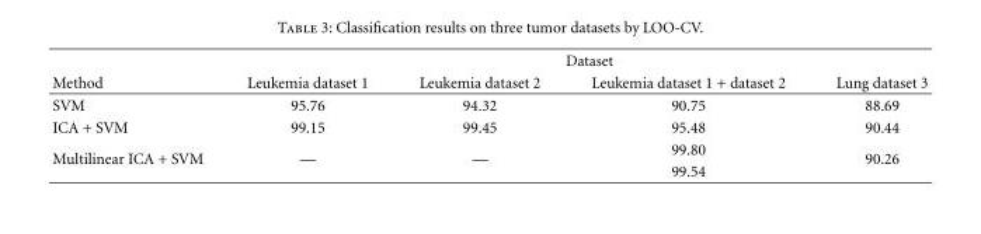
<table><thead><tr><td rowspan="2">Method</td><td colspan="4">Dataset</td></tr><tr><td>Leukemia dataset 1</td><td>Leukemia dataset 2</td><td>Leukemia dataset 1 + dataset 2</td><td>Lung dataset 3</td></tr></thead><tbody><tr><td>SVM</td><td>95.76</td><td>94.32</td><td>90.75</td><td>88.69</td></tr><tr><td>ICA + SVM</td><td>99.15</td><td>99.45</td><td>95.48</td><td>90.44</td></tr><tr><td rowspan="2">Multilinear ICA + SVM</td><td rowspan="2">—</td><td rowspan="2">—</td><td>99.80</td><td rowspan="2">90.26</td></tr><tr><td>99.54</td></tr></tbody></table>